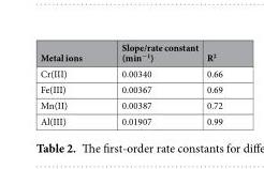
<table><thead><tr><td>Metal ions</td><td>Slope/rate constant (min<sup>−1</sup>)</td><td>R<sup>2</sup></td></tr></thead><tbody><tr><td>Cr(III)</td><td>0.00340</td><td>0.66</td></tr><tr><td>Fe(III)</td><td>0.00367</td><td>0.69</td></tr><tr><td>Mn(II)</td><td>0.00387</td><td>0.72</td></tr><tr><td>Al(III)</td><td>0.01907</td><td>0.99</td></tr></tbody></table>